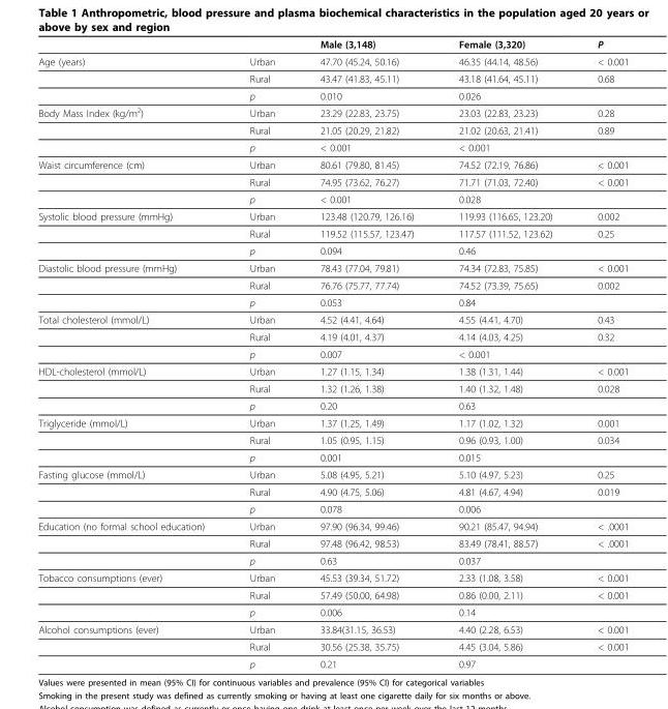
<table><thead><tr><td></td><td></td><td>Male (3,148)</td><td>Female (3,320)</td><td>P</td></tr></thead><tbody><tr><td rowspan="3">Age (years)</td><td>Urban</td><td>47.70 (45.24, 50.16)</td><td>46.35 (44.14, 48.56)</td><td>&lt; 0.001</td></tr><tr><td>Rural</td><td>43.47 (41.83, 45.11)</td><td>43.18 (41.64, 45.11)</td><td>0.68</td></tr><tr><td>p</td><td>0.010</td><td>0.026</td><td></td></tr><tr><td rowspan="3">Body Mass Index (kg/m<sup>2</sup>)</td><td>Urban</td><td>23.29 (22.83, 23.75)</td><td>23.03 (22.83, 23.23)</td><td>0.28</td></tr><tr><td>Rural</td><td>21.05 (20.29, 21.82)</td><td>21.02 (20.63, 21.41)</td><td>0.89</td></tr><tr><td>p</td><td>&lt; 0.001</td><td>&lt; 0.001</td><td></td></tr><tr><td rowspan="3">Waist circumference (cm)</td><td>Urban</td><td>80.61 (79.80, 81.45)</td><td>74.52 (72.19, 76.86)</td><td>&lt; 0.001</td></tr><tr><td>Rural</td><td>74.95 (73.62, 76.27)</td><td>71.71 (71.03, 72.40)</td><td>&lt; 0.001</td></tr><tr><td>p</td><td>&lt; 0.001</td><td>0.028</td><td></td></tr><tr><td rowspan="3">Systolic blood pressure (mmHg)</td><td>Urban</td><td>123.48 (120.79, 126.16)</td><td>119.93 (116.65, 123.20)</td><td>0.002</td></tr><tr><td>Rural</td><td>119.52 (115.57, 123.47)</td><td>117.57 (111.52, 123.62)</td><td>0.25</td></tr><tr><td>p</td><td>0.094</td><td>0.46</td><td></td></tr><tr><td rowspan="3">Diastolic blood pressure (mmHg)</td><td>Urban</td><td>78.43 (77.04, 79.81)</td><td>74.34 (72.83, 75.85)</td><td>&lt; 0.001</td></tr><tr><td>Rural</td><td>76.76 (75.77, 77.74)</td><td>74.52 (73.39, 75.65)</td><td>0.002</td></tr><tr><td>p</td><td>0.053</td><td>0.84</td><td></td></tr><tr><td rowspan="3">Total cholesterol (mmol/L)</td><td>Urban</td><td>4.52 (4.41, 4.64)</td><td>4.55 (4.41, 4.70)</td><td>0.43</td></tr><tr><td>Rural</td><td>4.19 (4.01, 4.37)</td><td>4.14 (4.03, 4.25)</td><td>0.32</td></tr><tr><td>p</td><td>0.007</td><td>&lt; 0.001</td><td></td></tr><tr><td rowspan="3">HDL-cholesterol (mmol/L)</td><td>Urban</td><td>1.27 (1.15, 1.34)</td><td>1.38 (1.31, 1.44)</td><td>&lt; 0.001</td></tr><tr><td>Rural</td><td>1.32 (1.26, 1.38)</td><td>1.40 (1.32, 1.48)</td><td>0.028</td></tr><tr><td>p</td><td>0.20</td><td>0.63</td><td></td></tr><tr><td rowspan="3">Triglyceride (mmol/L)</td><td>Urban</td><td>1.37 (1.25, 1.49)</td><td>1.17 (1.02, 1.32)</td><td>0.001</td></tr><tr><td>Rural</td><td>1.05 (0.95, 1.15)</td><td>0.96 (0.93, 1.00)</td><td>0.034</td></tr><tr><td>p</td><td>0.001</td><td>0.015</td><td></td></tr><tr><td rowspan="3">Fasting glucose (mmol/L)</td><td>Urban</td><td>5.08 (4.95, 5.21)</td><td>5.10 (4.97, 5.23)</td><td>0.25</td></tr><tr><td>Rural</td><td>4.90 (4.75, 5.06)</td><td>4.81 (4.67, 4.94)</td><td>0.019</td></tr><tr><td>p</td><td>0.078</td><td>0.006</td><td></td></tr><tr><td rowspan="3">Education (no formal school education)</td><td>Urban</td><td>97.90 (96.34, 99.46)</td><td>90.21 (85.47, 94.94)</td><td>&lt; .0001</td></tr><tr><td>Rural</td><td>97.48 (96.42, 98.53)</td><td>83.49 (78.41, 88.57)</td><td>&lt; .0001</td></tr><tr><td>p</td><td>0.63</td><td>0.037</td><td></td></tr><tr><td rowspan="3">Tobacco consumptions (ever)</td><td>Urban</td><td>45.53 (39.34, 51.72)</td><td>2.33 (1.08, 3.58)</td><td>&lt; 0.001</td></tr><tr><td>Rural</td><td>57.49 (50.00, 64.98)</td><td>0.86 (0.00, 2.11)</td><td>&lt; 0.001</td></tr><tr><td>p</td><td>0.006</td><td>0.14</td><td></td></tr><tr><td rowspan="3">Alcohol consumptions (ever)</td><td>Urban</td><td>33.84(31.15, 36.53)</td><td>4.40 (2.28, 6.53)</td><td>&lt; 0.001</td></tr><tr><td>Rural</td><td>30.56 (25.38, 35.75)</td><td>4.45 (3.04, 5.86)</td><td>&lt; 0.001</td></tr><tr><td>p</td><td>0.21</td><td>0.97</td><td></td></tr></tbody></table>